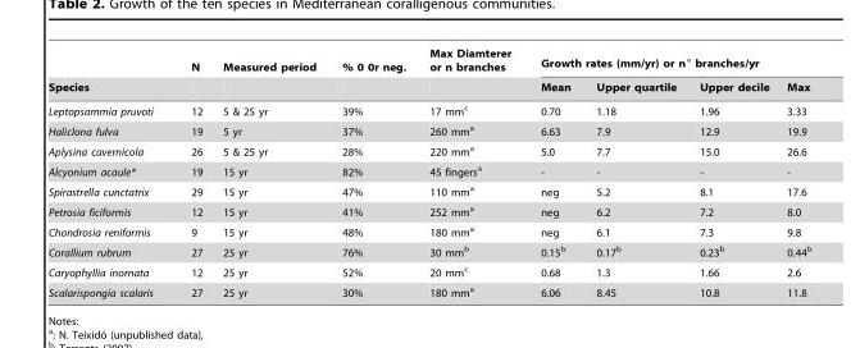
<table><thead><tr><td rowspan="2">Species</td><td rowspan="2">N</td><td rowspan="2">Measured period</td><td rowspan="2">% 0 0r neg.</td><td rowspan="2">Max Diamterer or n branches</td><td colspan="4">Growth rates (mm/yr) or n° branches/yr</td></tr><tr><td>Mean</td><td>Upper quartile</td><td>Upper decile</td><td>Max</td></tr></thead><tbody><tr><td>Leptopsammia pruvoti</td><td>12</td><td>5 &amp; 25 yr</td><td>39%</td><td>17 mm<sup>c</sup></td><td>0.70</td><td>1.18</td><td>1.96</td><td>3.33</td></tr><tr><td>Haliclona fulva</td><td>19</td><td>5 yr</td><td>37%</td><td>260 mm<sup>a</sup></td><td>6.63</td><td>7.9</td><td>12.9</td><td>19.9</td></tr><tr><td>Aplysina cavernicola</td><td>26</td><td>5 &amp; 25 yr</td><td>28%</td><td>220 mm<sup>a</sup></td><td>5.0</td><td>7.7</td><td>15.0</td><td>26.6</td></tr><tr><td>Alcyonium acaule*</td><td>19</td><td>15 yr</td><td>82%</td><td>45 fingers<sup>a</sup></td><td>-</td><td>-</td><td>-</td><td>-</td></tr><tr><td>Spirastrella cunctatrix</td><td>29</td><td>15 yr</td><td>47%</td><td>110 mm<sup>a</sup></td><td>neg</td><td>5.2</td><td>8.1</td><td>17.6</td></tr><tr><td>Petrosia ficiformis</td><td>12</td><td>15 yr</td><td>41%</td><td>252 mm<sup>a</sup></td><td>neg</td><td>6.2</td><td>7.2</td><td>8.0</td></tr><tr><td>Chondrosia reniformis</td><td>9</td><td>15 yr</td><td>48%</td><td>180 mm<sup>a</sup></td><td>neg</td><td>6.1</td><td>7.3</td><td>9.8</td></tr><tr><td>Corallium rubrum</td><td>27</td><td>25 yr</td><td>76%</td><td>30 mm<sup>b</sup></td><td>0.15<sup>b</sup></td><td>0.17<sup>b</sup></td><td>0.23<sup>b</sup></td><td>0.44<sup>b</sup></td></tr><tr><td>Caryophyllia inornata</td><td>12</td><td>25 yr</td><td>52%</td><td>20 mm<sup>c</sup></td><td>0.68</td><td>1.3</td><td>1.66</td><td>2.6</td></tr><tr><td>Scalarispongia scalaris</td><td>27</td><td>25 yr</td><td>30%</td><td>180 mm<sup>a</sup></td><td>6.06</td><td>8.45</td><td>10.8</td><td>11.8</td></tr></tbody></table>